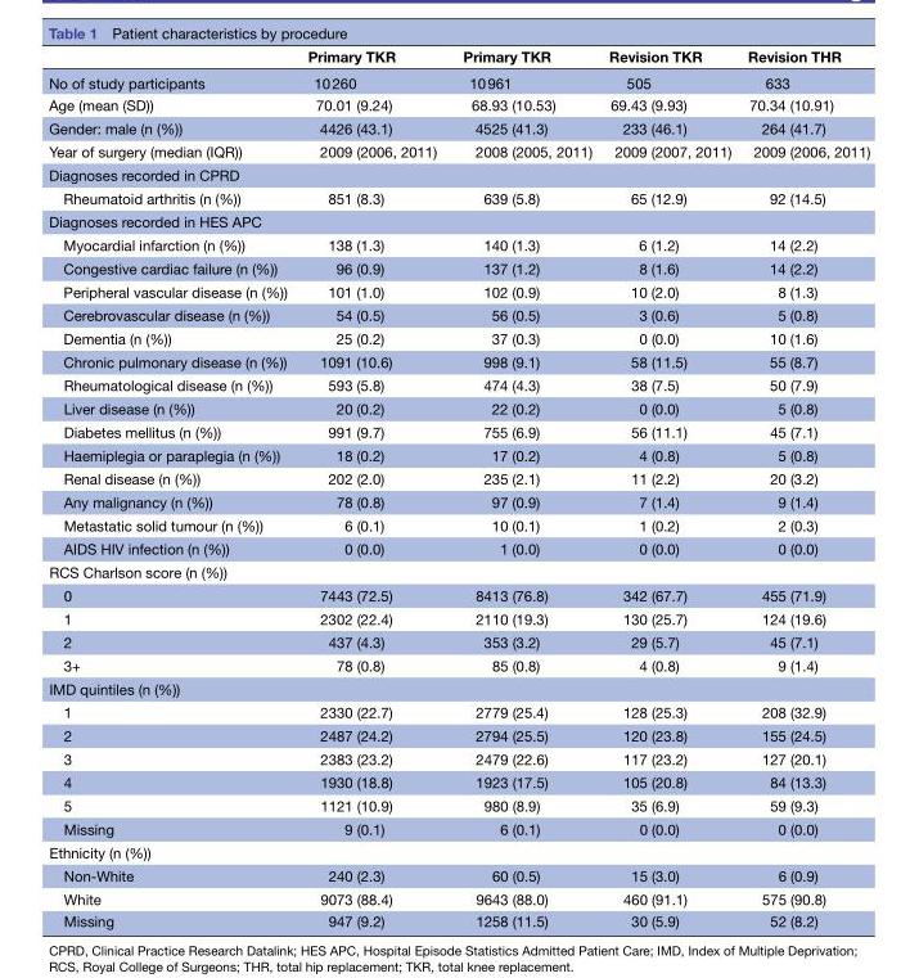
<table><thead><tr><td></td><td>Primary TKR</td><td>Primary TKR</td><td>Revision TKR</td><td>Revision THR</td></tr></thead><tbody><tr><td>No of study participants</td><td>10 260</td><td>10 961</td><td>505</td><td>633</td></tr><tr><td>Age (mean (SD))</td><td>70.01 (9.24)</td><td>68.93 (10.53)</td><td>69.43 (9.93)</td><td>70.34 (10.91)</td></tr><tr><td>Gender: male (n (%))</td><td>4426 (43.1)</td><td>4525 (41.3)</td><td>233 (46.1)</td><td>264 (41.7)</td></tr><tr><td>Year of surgery (median (IQR))</td><td>2009 (2006, 2011)</td><td>2008 (2005, 2011)</td><td>2009 (2007, 2011)</td><td>2009 (2006, 2011)</td></tr><tr><td colspan="5">Diagnoses recorded in CPRD</td></tr><tr><td>Rheumatoid arthritis (n (%))</td><td>851 (8.3)</td><td>639 (5.8)</td><td>65 (12.9)</td><td>92 (14.5)</td></tr><tr><td colspan="5">Diagnoses recorded in HES APC</td></tr><tr><td>Myocardial infarction (n (%))</td><td>138 (1.3)</td><td>140 (1.3)</td><td>6 (1.2)</td><td>14 (2.2)</td></tr><tr><td>Congestive cardiac failure (n (%))</td><td>96 (0.9)</td><td>137 (1.2)</td><td>8 (1.6)</td><td>14 (2.2)</td></tr><tr><td>Peripheral vascular disease (n (%))</td><td>101 (1.0)</td><td>102 (0.9)</td><td>10 (2.0)</td><td>8 (1.3)</td></tr><tr><td>Cerebrovascular disease (n (%))</td><td>54 (0.5)</td><td>56 (0.5)</td><td>3 (0.6)</td><td>5 (0.8)</td></tr><tr><td>Dementia (n (%))</td><td>25 (0.2)</td><td>37 (0.3)</td><td>0 (0.0)</td><td>10 (1.6)</td></tr><tr><td>Chronic pulmonary disease (n (%))</td><td>1091 (10.6)</td><td>998 (9.1)</td><td>58 (11.5)</td><td>55 (8.7)</td></tr><tr><td>Rheumatological disease (n (%))</td><td>593 (5.8)</td><td>474 (4.3)</td><td>38 (7.5)</td><td>50 (7.9)</td></tr><tr><td>Liver disease (n (%))</td><td>20 (0.2)</td><td>22 (0.2)</td><td>0 (0.0)</td><td>5 (0.8)</td></tr><tr><td>Diabetes mellitus (n (%))</td><td>991 (9.7)</td><td>755 (6.9)</td><td>56 (11.1)</td><td>45 (7.1)</td></tr><tr><td>Haemiplegia or paraplegia (n (%))</td><td>18 (0.2)</td><td>17 (0.2)</td><td>4 (0.8)</td><td>5 (0.8)</td></tr><tr><td>Renal disease (n (%))</td><td>202 (2.0)</td><td>235 (2.1)</td><td>11 (2.2)</td><td>20 (3.2)</td></tr><tr><td>Any malignancy (n (%))</td><td>78 (0.8)</td><td>97 (0.9)</td><td>7 (1.4)</td><td>9 (1.4)</td></tr><tr><td>Metastatic solid tumour (n (%))</td><td>6 (0.1)</td><td>10 (0.1)</td><td>1 (0.2)</td><td>2 (0.3)</td></tr><tr><td>AIDS HIV infection (n (%))</td><td>0 (0.0)</td><td>1 (0.0)</td><td>0 (0.0)</td><td>0 (0.0)</td></tr><tr><td colspan="5">RCS Charlson score (n (%))</td></tr><tr><td>0</td><td>7443 (72.5)</td><td>8413 (76.8)</td><td>342 (67.7)</td><td>455 (71.9)</td></tr><tr><td>1</td><td>2302 (22.4)</td><td>2110 (19.3)</td><td>130 (25.7)</td><td>124 (19.6)</td></tr><tr><td>2</td><td>437 (4.3)</td><td>353 (3.2)</td><td>29 (5.7)</td><td>45 (7.1)</td></tr><tr><td>3+</td><td>78 (0.8)</td><td>85 (0.8)</td><td>4 (0.8)</td><td>9 (1.4)</td></tr><tr><td colspan="5">IMD quintiles (n (%))</td></tr><tr><td>1</td><td>2330 (22.7)</td><td>2779 (25.4)</td><td>128 (25.3)</td><td>208 (32.9)</td></tr><tr><td>2</td><td>2487 (24.2)</td><td>2794 (25.5)</td><td>120 (23.8)</td><td>155 (24.5)</td></tr><tr><td>3</td><td>2383 (23.2)</td><td>2479 (22.6)</td><td>117 (23.2)</td><td>127 (20.1)</td></tr><tr><td>4</td><td>1930 (18.8)</td><td>1923 (17.5)</td><td>105 (20.8)</td><td>84 (13.3)</td></tr><tr><td>5</td><td>1121 (10.9)</td><td>980 (8.9)</td><td>35 (6.9)</td><td>59 (9.3)</td></tr><tr><td>Missing</td><td>9 (0.1)</td><td>6 (0.1)</td><td>0 (0.0)</td><td>0 (0.0)</td></tr><tr><td colspan="5">Ethnicity (n (%))</td></tr><tr><td>Non-White</td><td>240 (2.3)</td><td>60 (0.5)</td><td>15 (3.0)</td><td>6 (0.9)</td></tr><tr><td>White</td><td>9073 (88.4)</td><td>9643 (88.0)</td><td>460 (91.1)</td><td>575 (90.8)</td></tr><tr><td>Missing</td><td>947 (9.2)</td><td>1258 (11.5)</td><td>30 (5.9)</td><td>52 (8.2)</td></tr></tbody></table>